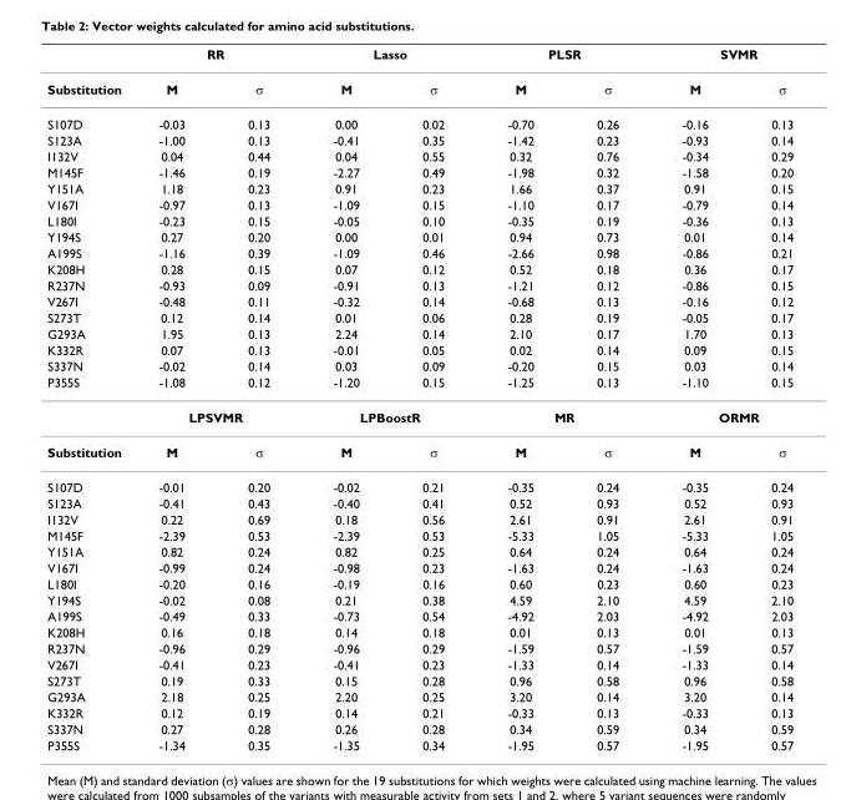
<table><thead><tr><td rowspan="2">Substitution</td><td colspan="2">RR</td><td colspan="2">Lasso</td><td colspan="2">PLSR</td><td colspan="2">SVMR</td></tr><tr><td>M</td><td>σ</td><td>M</td><td>σ</td><td>M</td><td>σ</td><td>M</td><td>σ</td></tr></thead><tbody><tr><td>S107D</td><td>-0.03</td><td>0.13</td><td>0.00</td><td>0.02</td><td>-0.70</td><td>0.26</td><td>-0.16</td><td>0.13</td></tr><tr><td>S123A</td><td>-1.00</td><td>0.13</td><td>-0.41</td><td>0.35</td><td>-1.42</td><td>0.23</td><td>-0.93</td><td>0.14</td></tr><tr><td>I132V</td><td>0.04</td><td>0.44</td><td>0.04</td><td>0.55</td><td>0.32</td><td>0.76</td><td>-0.34</td><td>0.29</td></tr><tr><td>M145F</td><td>-1.46</td><td>0.19</td><td>-2.27</td><td>0.49</td><td>-1.98</td><td>0.32</td><td>-1.58</td><td>0.20</td></tr><tr><td>Y151A</td><td>1.18</td><td>0.23</td><td>0.91</td><td>0.23</td><td>1.66</td><td>0.37</td><td>0.91</td><td>0.15</td></tr><tr><td>V167I</td><td>-0.97</td><td>0.13</td><td>-1.09</td><td>0.15</td><td>-1.10</td><td>0.17</td><td>-0.79</td><td>0.14</td></tr><tr><td>L180I</td><td>-0.23</td><td>0.15</td><td>-0.05</td><td>0.10</td><td>-0.35</td><td>0.19</td><td>-0.36</td><td>0.13</td></tr><tr><td>Y194S</td><td>0.27</td><td>0.20</td><td>0.00</td><td>0.01</td><td>0.94</td><td>0.73</td><td>0.01</td><td>0.14</td></tr><tr><td>A199S</td><td>-1.16</td><td>0.39</td><td>-1.09</td><td>0.46</td><td>-2.66</td><td>0.98</td><td>-0.86</td><td>0.21</td></tr><tr><td>K208H</td><td>0.28</td><td>0.15</td><td>0.07</td><td>0.12</td><td>0.52</td><td>0.18</td><td>0.36</td><td>0.17</td></tr><tr><td>R237N</td><td>-0.93</td><td>0.09</td><td>-0.91</td><td>0.13</td><td>-1.21</td><td>0.12</td><td>-0.86</td><td>0.15</td></tr><tr><td>V267I</td><td>-0.48</td><td>0.11</td><td>-0.32</td><td>0.14</td><td>-0.68</td><td>0.13</td><td>-0.16</td><td>0.12</td></tr><tr><td>S273T</td><td>0.12</td><td>0.14</td><td>0.01</td><td>0.06</td><td>0.28</td><td>0.19</td><td>-0.05</td><td>0.17</td></tr><tr><td>G293A</td><td>1.95</td><td>0.13</td><td>2.24</td><td>0.14</td><td>2.10</td><td>0.17</td><td>1.70</td><td>0.13</td></tr><tr><td>K332R</td><td>0.07</td><td>0.13</td><td>-0.01</td><td>0.05</td><td>0.02</td><td>0.14</td><td>0.09</td><td>0.15</td></tr><tr><td>S337N</td><td>-0.02</td><td>0.14</td><td>0.03</td><td>0.09</td><td>-0.20</td><td>0.15</td><td>0.03</td><td>0.14</td></tr><tr><td rowspan="2">P355S</td><td>-1.08</td><td>0.12</td><td>-1.20</td><td>0.15</td><td>-1.25</td><td>0.13</td><td>-1.10</td><td>0.15</td></tr><tr><td colspan="2">LPSVMR</td><td colspan="2">LPBoostR</td><td colspan="2">MR</td><td colspan="2">ORMR</td></tr><tr><td>Substitution</td><td>M</td><td>σ</td><td>M</td><td>σ</td><td>M</td><td>σ</td><td>M</td><td>σ</td></tr><tr><td>S107D</td><td>-0.01</td><td>0.20</td><td>-0.02</td><td>0.21</td><td>-0.35</td><td>0.24</td><td>-0.35</td><td>0.24</td></tr><tr><td>S123A</td><td>-0.41</td><td>0.43</td><td>-0.40</td><td>0.41</td><td>0.52</td><td>0.93</td><td>0.52</td><td>0.93</td></tr><tr><td>I132V</td><td>0.22</td><td>0.69</td><td>0.18</td><td>0.56</td><td>2.61</td><td>0.91</td><td>2.61</td><td>0.91</td></tr><tr><td>M145F</td><td>-2.39</td><td>0.53</td><td>-2.39</td><td>0.53</td><td>-5.33</td><td>1.05</td><td>-5.33</td><td>1.05</td></tr><tr><td>Y151A</td><td>0.82</td><td>0.24</td><td>0.82</td><td>0.25</td><td>0.64</td><td>0.24</td><td>0.64</td><td>0.24</td></tr><tr><td>V167I</td><td>-0.99</td><td>0.24</td><td>-0.98</td><td>0.23</td><td>-1.63</td><td>0.24</td><td>-1.63</td><td>0.24</td></tr><tr><td>L180I</td><td>-0.20</td><td>0.16</td><td>-0.19</td><td>0.16</td><td>0.60</td><td>0.23</td><td>0.60</td><td>0.23</td></tr><tr><td>Y194S</td><td>-0.02</td><td>0.08</td><td>0.21</td><td>0.38</td><td>4.59</td><td>2.10</td><td>4.59</td><td>2.10</td></tr><tr><td>A199S</td><td>-0.49</td><td>0.33</td><td>-0.73</td><td>0.54</td><td>-4.92</td><td>2.03</td><td>-4.92</td><td>2.03</td></tr><tr><td>K208H</td><td>0.16</td><td>0.18</td><td>0.14</td><td>0.18</td><td>0.01</td><td>0.13</td><td>0.01</td><td>0.13</td></tr><tr><td>R237N</td><td>-0.96</td><td>0.29</td><td>-0.96</td><td>0.29</td><td>-1.59</td><td>0.57</td><td>-1.59</td><td>0.57</td></tr><tr><td>V267I</td><td>-0.41</td><td>0.23</td><td>-0.41</td><td>0.23</td><td>-1.33</td><td>0.14</td><td>-1.33</td><td>0.14</td></tr><tr><td>S273T</td><td>0.19</td><td>0.33</td><td>0.15</td><td>0.28</td><td>0.96</td><td>0.58</td><td>0.96</td><td>0.58</td></tr><tr><td>G293A</td><td>2.18</td><td>0.25</td><td>2.20</td><td>0.25</td><td>3.20</td><td>0.14</td><td>3.20</td><td>0.14</td></tr><tr><td>K332R</td><td>0.12</td><td>0.19</td><td>0.14</td><td>0.21</td><td>-0.33</td><td>0.13</td><td>-0.33</td><td>0.13</td></tr><tr><td>S337N</td><td>0.27</td><td>0.28</td><td>0.26</td><td>0.28</td><td>0.34</td><td>0.59</td><td>0.34</td><td>0.59</td></tr><tr><td>P355S</td><td>-1.34</td><td>0.35</td><td>-1.35</td><td>0.34</td><td>-1.95</td><td>0.57</td><td>-1.95</td><td>0.57</td></tr></tbody></table>